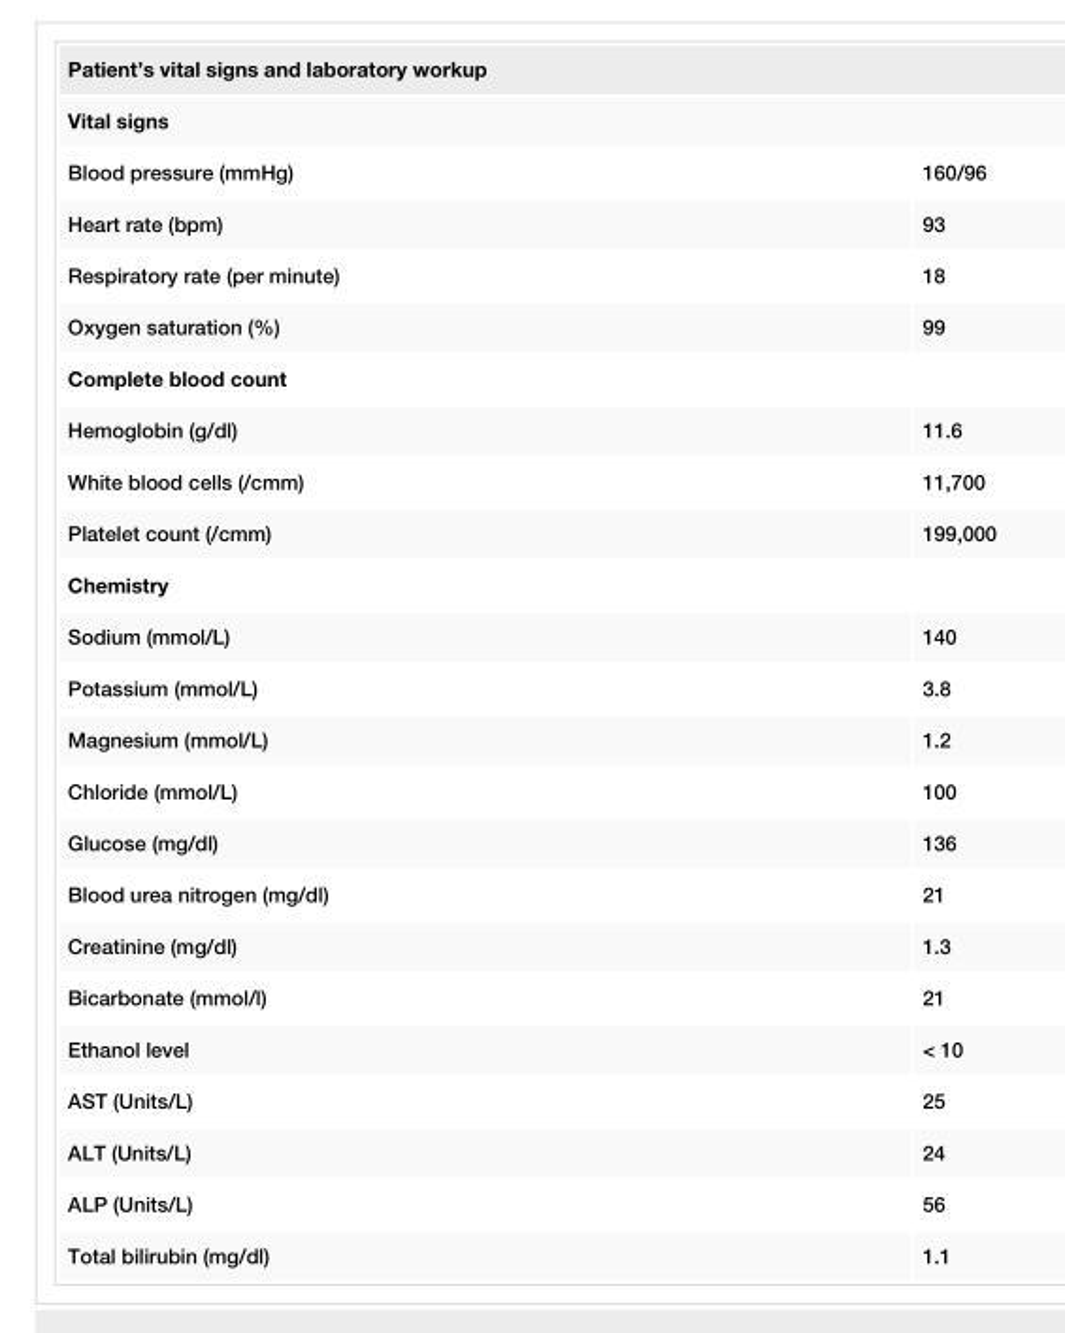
<table><tbody><tr><td colspan="2">Patient’s vital signs and laboratory workup</td></tr><tr><td colspan="2">Vital signs</td></tr><tr><td>Blood pressure (mmHg)</td><td>160/96</td></tr><tr><td>Heart rate (bpm)</td><td>93</td></tr><tr><td>Respiratory rate (per minute)</td><td>18</td></tr><tr><td>Oxygen saturation (%)</td><td>99</td></tr><tr><td colspan="2">Complete blood count</td></tr><tr><td>Hemoglobin (g/dl)</td><td>11.6</td></tr><tr><td>White blood cells (/cmm)</td><td>11,700</td></tr><tr><td>Platelet count (/cmm)</td><td>199,000</td></tr><tr><td colspan="2">Chemistry</td></tr><tr><td>Sodium (mmol/L)</td><td>140</td></tr><tr><td>Potassium (mmol/L)</td><td>3.8</td></tr><tr><td>Magnesium (mmol/L)</td><td>1.2</td></tr><tr><td>Chloride (mmol/L)</td><td>100</td></tr><tr><td>Glucose (mg/dl)</td><td>136</td></tr><tr><td>Blood urea nitrogen (mg/dl)</td><td>21</td></tr><tr><td>Creatinine (mg/dl)</td><td>1.3</td></tr><tr><td>Bicarbonate (mmol/l)</td><td>21</td></tr><tr><td>Ethanol level</td><td>&lt; 10</td></tr><tr><td>AST (Units/L)</td><td>25</td></tr><tr><td>ALT (Units/L)</td><td>24</td></tr><tr><td>ALP (Units/L)</td><td>56</td></tr><tr><td>Total bilirubin (mg/dl)</td><td>1.1</td></tr></tbody></table>